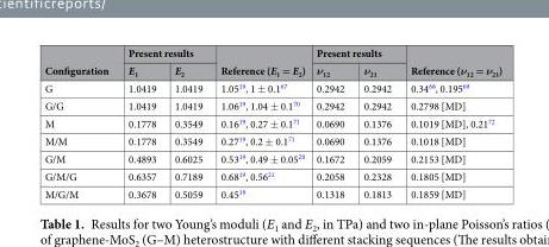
<table><thead><tr><td rowspan="2">Configuration</td><td colspan="2">Present results</td><td rowspan="2">Reference (E<sub>1</sub> = E<sub>2</sub>)</td><td colspan="2">Present results</td><td rowspan="2">Reference (ν<sub>12</sub> = ν<sub>21</sub>)</td></tr><tr><td>E<sub>1</sub></td><td>E<sub>2</sub></td><td>ν<sub>12</sub></td><td>ν<sub>21</sub></td></tr></thead><tbody><tr><td>G</td><td>1.0419</td><td>1.0419</td><td>1.05<sup>19</sup>, 1 ± 0.1<sup>67</sup></td><td>0.2942</td><td>0.2942</td><td>0.34<sup>68</sup>, 0.195<sup>69</sup></td></tr><tr><td>G/G</td><td>1.0419</td><td>1.0419</td><td>1.06<sup>19</sup>, 1.04 ± 0.1<sup>70</sup></td><td>0.2942</td><td>0.2942</td><td>0.2798 [MD]</td></tr><tr><td>M</td><td>0.1778</td><td>0.3549</td><td>0.16<sup>19</sup>, 0.27 ± 0.1<sup>71</sup></td><td>0.0690</td><td>0.1376</td><td>0.1019 [MD], 0.21<sup>72</sup></td></tr><tr><td>M/M</td><td>0.1778</td><td>0.3549</td><td>0.27<sup>19</sup>, 0.2 ± 0.1<sup>71</sup></td><td>0.0690</td><td>0.1376</td><td>0.1018 [MD]</td></tr><tr><td>G/M</td><td>0.4893</td><td>0.6025</td><td>0.53<sup>19</sup>, 0.49 ± 0.05<sup>20</sup></td><td>0.1672</td><td>0.2059</td><td>0.2153 [MD]</td></tr><tr><td>G/M/G</td><td>0.6357</td><td>0.7189</td><td>0.68<sup>19</sup>, 0.56<sup>21</sup></td><td>0.2058</td><td>0.2328</td><td>0.1805 [MD]</td></tr><tr><td>M/G/M</td><td>0.3678</td><td>0.5059</td><td>0.45<sup>19</sup></td><td>0.1318</td><td>0.1813</td><td>0.1859 [MD]</td></tr></tbody></table>